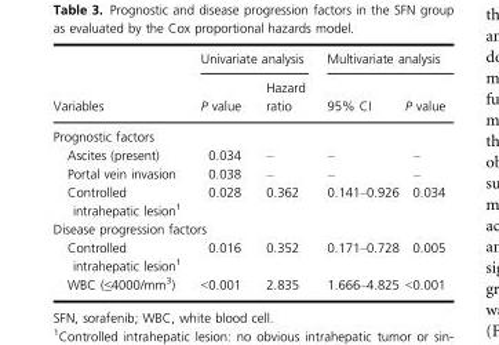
<table><thead><tr><td rowspan="2">Variables</td><td colspan="2">Univariate analysis</td><td colspan="2">Multivariate analysis</td></tr><tr><td>P value</td><td>Hazard ratio</td><td>95% CI</td><td>P value</td></tr></thead><tbody><tr><td colspan="5">Prognostic factors</td></tr><tr><td>Ascites (present)</td><td>0.034</td><td>–</td><td>–</td><td>–</td></tr><tr><td>Portal vein invasion</td><td>0.038</td><td>–</td><td>–</td><td>–</td></tr><tr><td>Controlled intrahepatic lesion<sup>1</sup></td><td>0.028</td><td>0.362</td><td>0.141–0.926</td><td>0.034</td></tr><tr><td colspan="5">Disease progression factors</td></tr><tr><td>Controlled intrahepatic lesion<sup>1</sup></td><td>0.016</td><td>0.352</td><td>0.171–0.728</td><td>0.005</td></tr><tr><td>WBC (≤4000/mm<sup>3</sup>)</td><td>&lt;0.001</td><td>2.835</td><td>1.666–4.825</td><td>&lt;0.001</td></tr></tbody></table>